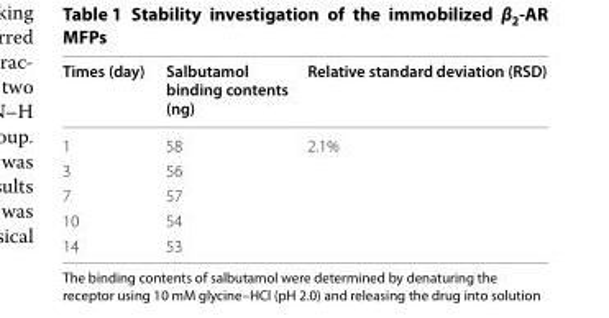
<table><thead><tr><td>Times (day)</td><td>Salbutamol binding contents (ng)</td><td>Relative standard deviation (RSD)</td></tr></thead><tbody><tr><td>1</td><td>58</td><td rowspan="5">2.1%</td></tr><tr><td>3</td><td>56</td></tr><tr><td>7</td><td>57</td></tr><tr><td>10</td><td>54</td></tr><tr><td>14</td><td>53</td></tr></tbody></table>